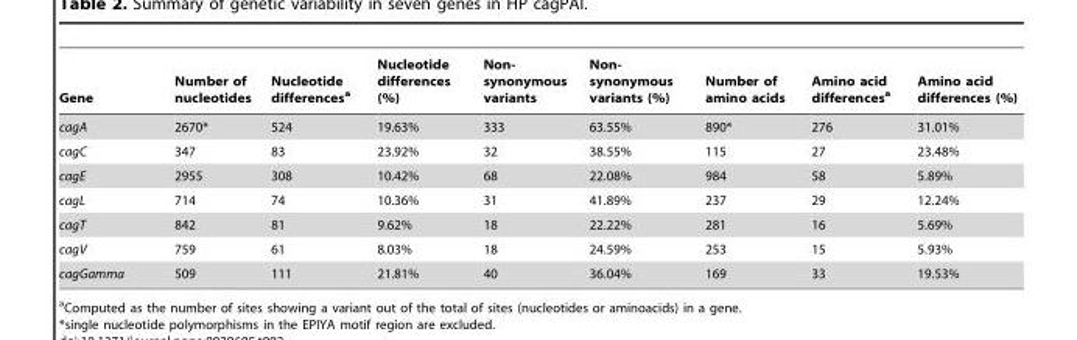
<table><thead><tr><td>Gene</td><td>Number of nucleotides</td><td>Nucleotide differences<sup>a</sup></td><td>Nucleotide differences (%)</td><td>Non- synonymous variants</td><td>Non- synonymous variants (%)</td><td>Number of amino acids</td><td>Amino acid differences<sup>a</sup></td><td>Amino acid differences (%)</td></tr></thead><tbody><tr><td>cagA</td><td>2670*</td><td>524</td><td>19.63%</td><td>333</td><td>63.55%</td><td>890*</td><td>276</td><td>31.01%</td></tr><tr><td>cagC</td><td>347</td><td>83</td><td>23.92%</td><td>32</td><td>38.55%</td><td>115</td><td>27</td><td>23.48%</td></tr><tr><td>cagE</td><td>2955</td><td>308</td><td>10.42%</td><td>68</td><td>22.08%</td><td>984</td><td>58</td><td>5.89%</td></tr><tr><td>cagL</td><td>714</td><td>74</td><td>10.36%</td><td>31</td><td>41.89%</td><td>237</td><td>29</td><td>12.24%</td></tr><tr><td>cagT</td><td>842</td><td>81</td><td>9.62%</td><td>18</td><td>22.22%</td><td>281</td><td>16</td><td>5.69%</td></tr><tr><td>cagV</td><td>759</td><td>61</td><td>8.03%</td><td>18</td><td>24.59%</td><td>253</td><td>15</td><td>5.93%</td></tr><tr><td>cagGamma</td><td>509</td><td>111</td><td>21.81%</td><td>40</td><td>36.04%</td><td>169</td><td>33</td><td>19.53%</td></tr></tbody></table>